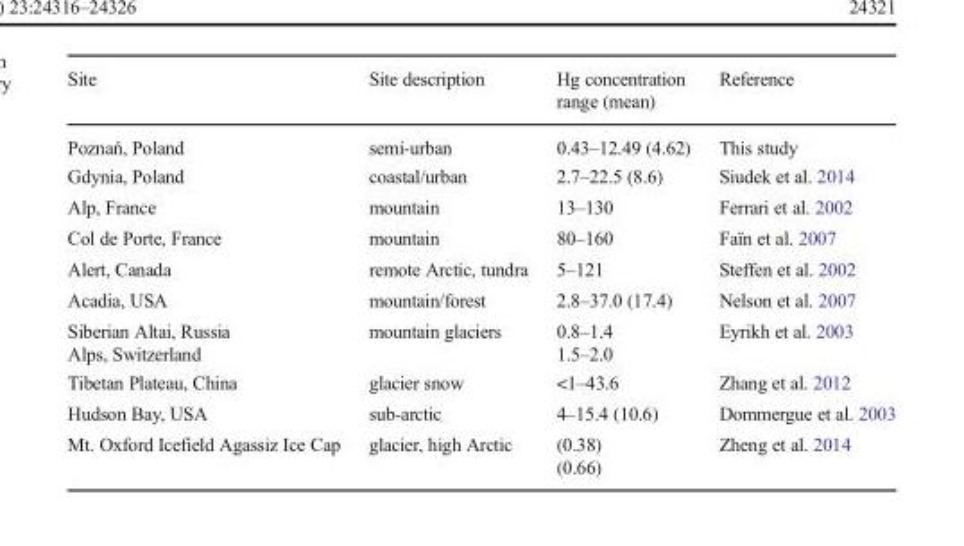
<table><thead><tr><td>Site</td><td>Site description</td><td>Hg concentration range (mean)</td><td>Reference</td></tr></thead><tbody><tr><td>Poznań, Poland</td><td>semi-urban</td><td>0.43–12.49 (4.62)</td><td>This study</td></tr><tr><td>Gdynia, Poland</td><td>coastal/urban</td><td>2.7–22.5 (8.6)</td><td>Siudek et al. 2014</td></tr><tr><td>Alp, France</td><td>mountain</td><td>13–130</td><td>Ferrari et al. 2002</td></tr><tr><td>Col de Porte, France</td><td>mountain</td><td>80–160</td><td>Faïn et al. 2007</td></tr><tr><td>Alert, Canada</td><td>remote Arctic, tundra</td><td>5–121</td><td>Steffen et al. 2002</td></tr><tr><td>Acadia, USA</td><td>mountain/forest</td><td>2.8–37.0 (17.4)</td><td>Nelson et al. 2007</td></tr><tr><td>Siberian Altai, Russia</td><td rowspan="2">mountain glaciers</td><td>0.8–1.4</td><td rowspan="2">Eyrikh et al. 2003</td></tr><tr><td>Alps, Switzerland</td><td>1.5–2.0</td></tr><tr><td>Tibetan Plateau, China</td><td>glacier snow</td><td>&lt;1–43.6</td><td>Zhang et al. 2012</td></tr><tr><td>Hudson Bay, USA</td><td>sub-arctic</td><td>4–15.4 (10.6)</td><td>Dommergue et al. 2003</td></tr><tr><td rowspan="2">Mt. Oxford Icefield Agassiz Ice Cap</td><td rowspan="2">glacier, high Arctic</td><td>(0.38)</td><td rowspan="2">Zheng et al. 2014</td></tr><tr><td>(0.66)</td></tr></tbody></table>